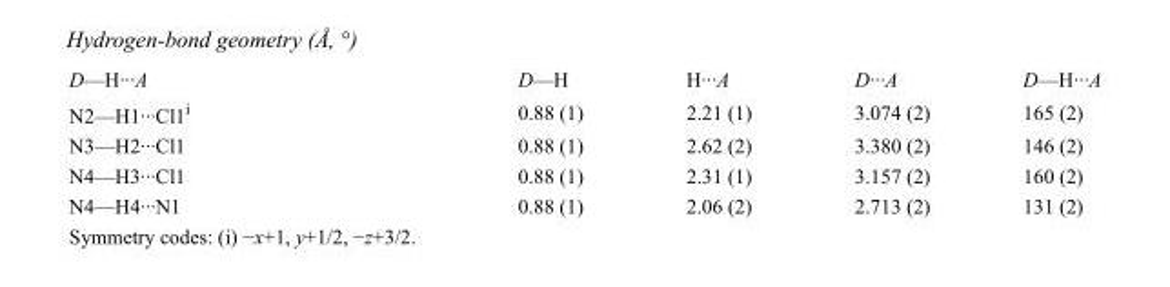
<table><tbody><tr><td>D—H···A</td><td>D—H</td><td>H···A</td><td>D···A</td><td>D—H···A</td></tr><tr><td>N2—H1···Cl1<sup>i</sup></td><td>0.88 (1)</td><td>2.21 (1)</td><td>3.074 (2)</td><td>165 (2)</td></tr><tr><td>N3—H2···Cl1</td><td>0.88 (1)</td><td>2.62 (2)</td><td>3.380 (2)</td><td>146 (2)</td></tr><tr><td>N4—H3···Cl1</td><td>0.88 (1)</td><td>2.31 (1)</td><td>3.157 (2)</td><td>160 (2)</td></tr><tr><td>N4—H4···N1</td><td>0.88 (1)</td><td>2.06 (2)</td><td>2.713 (2)</td><td>131 (2)</td></tr></tbody></table>